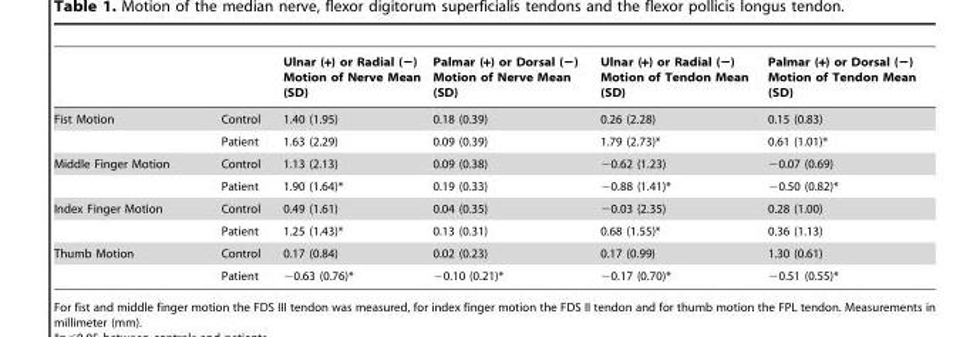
<table><thead><tr><td></td><td></td><td>Ulnar (+) or Radial (−) Motion of Nerve Mean (SD)</td><td>Palmar (+) or Dorsal (−) Motion of Nerve Mean (SD)</td><td>Ulnar (+) or Radial (−) Motion of Tendon Mean (SD)</td><td>Palmar (+) or Dorsal (−) Motion of Tendon Mean (SD)</td></tr></thead><tbody><tr><td rowspan="2">Fist Motion</td><td>Control</td><td>1.40 (1.95)</td><td>0.18 (0.39)</td><td>0.26 (2.28)</td><td>0.15 (0.83)</td></tr><tr><td>Patient</td><td>1.63 (2.29)</td><td>0.09 (0.39)</td><td>1.79 (2.73)*</td><td>0.61 (1.01)*</td></tr><tr><td rowspan="2">Middle Finger Motion</td><td>Control</td><td>1.13 (2.13)</td><td>0.09 (0.38)</td><td>−0.62 (1.23)</td><td>−0.07 (0.69)</td></tr><tr><td>Patient</td><td>1.90 (1.64)*</td><td>0.19 (0.33)</td><td>−0.88 (1.41)*</td><td>−0.50 (0.82)*</td></tr><tr><td rowspan="2">Index Finger Motion</td><td>Control</td><td>0.49 (1.61)</td><td>0.04 (0.35)</td><td>−0.03 (2.35)</td><td>0.28 (1.00)</td></tr><tr><td>Patient</td><td>1.25 (1.43)*</td><td>0.13 (0.31)</td><td>0.68 (1.55)*</td><td>0.36 (1.13)</td></tr><tr><td rowspan="2">Thumb Motion</td><td>Control</td><td>0.17 (0.84)</td><td>0.02 (0.23)</td><td>0.17 (0.99)</td><td>1.30 (0.61)</td></tr><tr><td>Patient</td><td>−0.63 (0.76)*</td><td>−0.10 (0.21)*</td><td>−0.17 (0.70)*</td><td>−0.51 (0.55)*</td></tr></tbody></table>